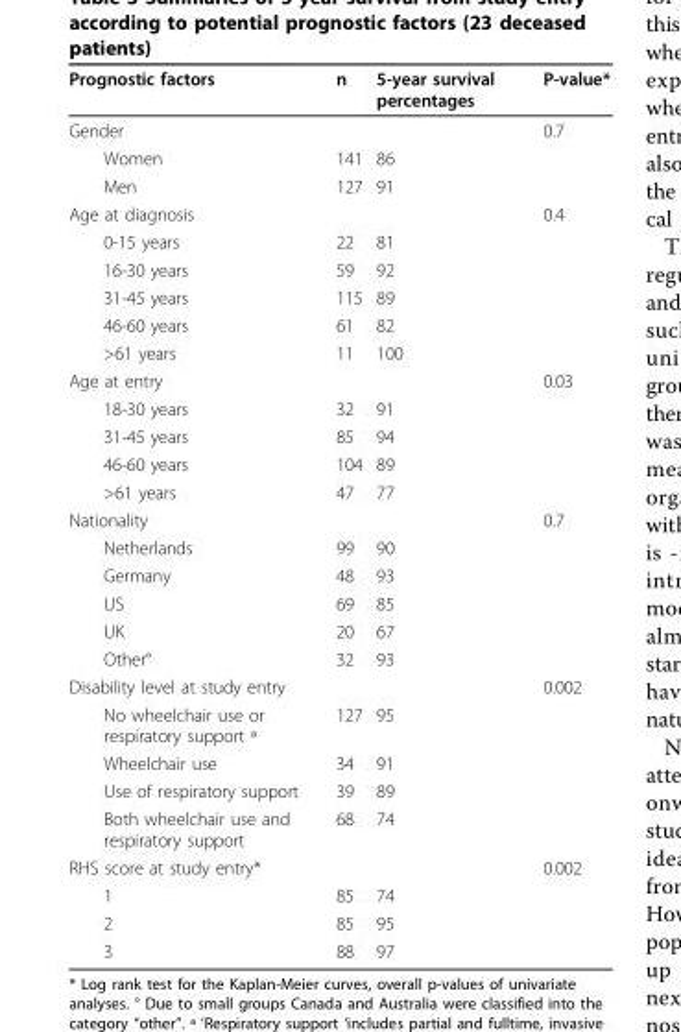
<table><thead><tr><td>Prognostic factors</td><td>n</td><td>5-year survival percentages</td><td>P-value*</td></tr></thead><tbody><tr><td>Gender</td><td></td><td></td><td>0.7</td></tr><tr><td>Women</td><td>141</td><td>86</td><td></td></tr><tr><td>Men</td><td>127</td><td>91</td><td></td></tr><tr><td>Age at diagnosis</td><td></td><td></td><td>0.4</td></tr><tr><td>0-15 years</td><td>22</td><td>81</td><td></td></tr><tr><td>16-30 years</td><td>59</td><td>92</td><td></td></tr><tr><td>31-45 years</td><td>115</td><td>89</td><td></td></tr><tr><td>46-60 years</td><td>61</td><td>82</td><td></td></tr><tr><td>&gt;61 years</td><td>11</td><td>100</td><td></td></tr><tr><td>Age at entry</td><td></td><td></td><td>0.03</td></tr><tr><td>18-30 years</td><td>32</td><td>91</td><td></td></tr><tr><td>31-45 years</td><td>85</td><td>94</td><td></td></tr><tr><td>46-60 years</td><td>104</td><td>89</td><td></td></tr><tr><td>&gt;61 years</td><td>47</td><td>77</td><td></td></tr><tr><td>Nationality</td><td></td><td></td><td>0.7</td></tr><tr><td>Netherlands</td><td>99</td><td>90</td><td></td></tr><tr><td>Germany</td><td>48</td><td>93</td><td></td></tr><tr><td>US</td><td>69</td><td>85</td><td></td></tr><tr><td>UK</td><td>20</td><td>67</td><td></td></tr><tr><td>Other°</td><td>32</td><td>93</td><td></td></tr><tr><td>Disability level at study entry</td><td></td><td></td><td>0.002</td></tr><tr><td>No wheelchair use or respiratory support ª</td><td>127</td><td>95</td><td></td></tr><tr><td>Wheelchair use</td><td>34</td><td>91</td><td></td></tr><tr><td>Use of respiratory support</td><td>39</td><td>89</td><td></td></tr><tr><td>Both wheelchair use and respiratory support</td><td>68</td><td>74</td><td></td></tr><tr><td>RHS score at study entry*</td><td></td><td></td><td>0.002</td></tr><tr><td>1</td><td>85</td><td>74</td><td></td></tr><tr><td>2</td><td>85</td><td>95</td><td></td></tr><tr><td>3</td><td>88</td><td>97</td><td></td></tr></tbody></table>